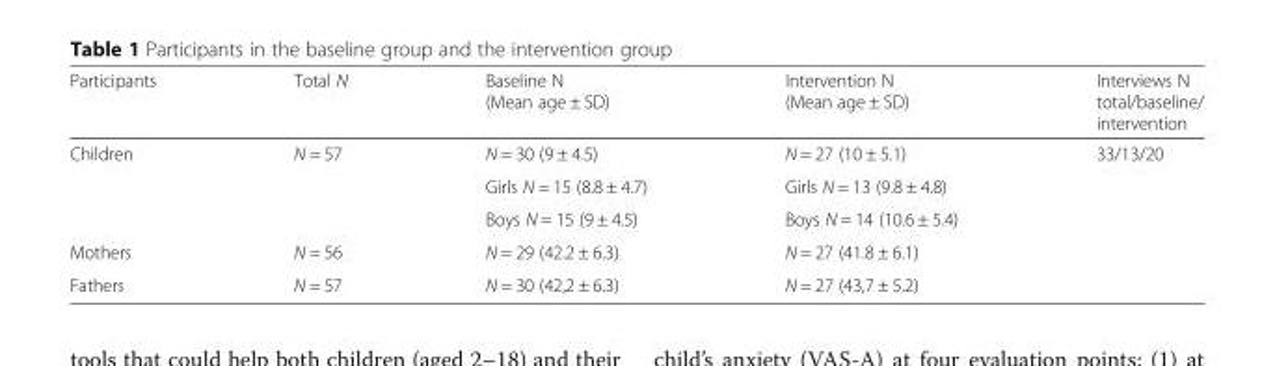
<table><thead><tr><td>Participants</td><td>Total N</td><td>Baseline N (Mean age ± SD)</td><td>Intervention N (Mean age ± SD)</td><td>Interviews N total/baseline/ intervention</td></tr></thead><tbody><tr><td rowspan="3">Children</td><td>N = 57</td><td>N = 30 (9 ± 4.5)</td><td>N = 27 (10 ± 5.1)</td><td>33/13/20</td></tr><tr><td></td><td>Girls N = 15 (8.8 ± 4.7)</td><td>Girls N = 13 (9.8 ± 4.8)</td><td></td></tr><tr><td></td><td>Boys N = 15 (9 ± 4.5)</td><td>Boys N = 14 (10.6 ± 5.4)</td><td></td></tr><tr><td>Mothers</td><td>N = 56</td><td>N = 29 (42.2 ± 6.3)</td><td>N = 27 (41.8 ± 6.1)</td><td></td></tr><tr><td>Fathers</td><td>N = 57</td><td>N = 30 (42,2 ± 6.3)</td><td>N = 27 (43,7 ± 5.2)</td><td></td></tr></tbody></table>